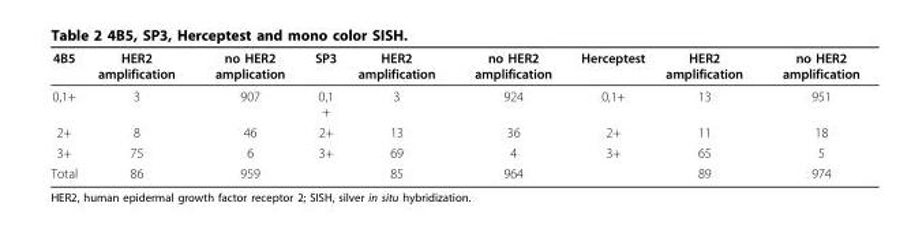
<table><thead><tr><td>4B5</td><td>HER2 amplification</td><td>no HER2 amplication</td><td>SP3</td><td>HER2 amplification</td><td>no HER2 amplification</td><td>Herceptest</td><td>HER2 amplification</td><td>no HER2 amplification</td></tr></thead><tbody><tr><td>0,1+</td><td>3</td><td>907</td><td>0,1 +</td><td>3</td><td>924</td><td>0,1+</td><td>13</td><td>951</td></tr><tr><td>2+</td><td>8</td><td>46</td><td>2+</td><td>13</td><td>36</td><td>2+</td><td>11</td><td>18</td></tr><tr><td>3+</td><td>75</td><td>6</td><td>3+</td><td>69</td><td>4</td><td>3+</td><td>65</td><td>5</td></tr><tr><td>Total</td><td>86</td><td>959</td><td></td><td>85</td><td>964</td><td></td><td>89</td><td>974</td></tr></tbody></table>